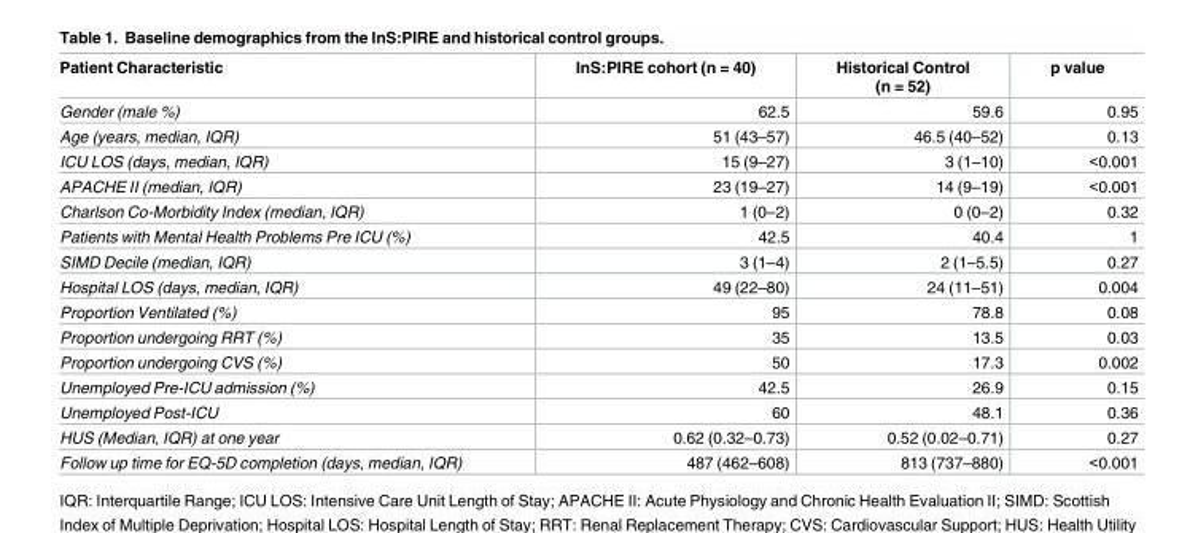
<table><thead><tr><td>Patient Characteristic</td><td>InS:PIRE cohort (n = 40)</td><td>Historical Control (n = 52)</td><td>p value</td></tr></thead><tbody><tr><td>Gender (male %)</td><td>62.5</td><td>59.6</td><td>0.95</td></tr><tr><td>Age (years, median, IQR)</td><td>51 (43–57)</td><td>46.5 (40–52)</td><td>0.13</td></tr><tr><td>ICU LOS (days, median, IQR)</td><td>15 (9–27)</td><td>3 (1–10)</td><td>&lt;0.001</td></tr><tr><td>APACHE II (median, IQR)</td><td>23 (19–27)</td><td>14 (9–19)</td><td>&lt;0.001</td></tr><tr><td>Charlson Co-Morbidity Index (median, IQR)</td><td>1 (0–2)</td><td>0 (0–2)</td><td>0.32</td></tr><tr><td>Patients with Mental Health Problems Pre ICU (%)</td><td>42.5</td><td>40.4</td><td>1</td></tr><tr><td>SIMD Decile (median, IQR)</td><td>3 (1–4)</td><td>2 (1–5.5)</td><td>0.27</td></tr><tr><td>Hospital LOS (days, median, IQR)</td><td>49 (22–80)</td><td>24 (11–51)</td><td>0.004</td></tr><tr><td>Proportion Ventilated (%)</td><td>95</td><td>78.8</td><td>0.08</td></tr><tr><td>Proportion undergoing RRT (%)</td><td>35</td><td>13.5</td><td>0.03</td></tr><tr><td>Proportion undergoing CVS (%)</td><td>50</td><td>17.3</td><td>0.002</td></tr><tr><td>Unemployed Pre-ICU admission (%)</td><td>42.5</td><td>26.9</td><td>0.15</td></tr><tr><td>Unemployed Post-ICU</td><td>60</td><td>48.1</td><td>0.36</td></tr><tr><td>HUS (Median, IQR) at one year</td><td>0.62 (0.32–0.73)</td><td>0.52 (0.02–0.71)</td><td>0.27</td></tr><tr><td>Follow up time for EQ-5D completion (days, median, IQR)</td><td>487 (462–608)</td><td>813 (737–880)</td><td>&lt;0.001</td></tr></tbody></table>